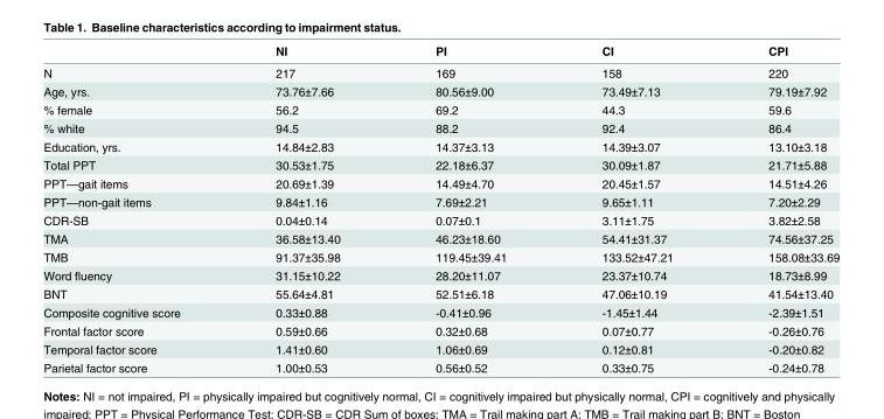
<table><thead><tr><td></td><td>NI</td><td>PI</td><td>CI</td><td>CPI</td></tr></thead><tbody><tr><td>N</td><td>217</td><td>169</td><td>158</td><td>220</td></tr><tr><td>Age, yrs.</td><td>73.76±7.66</td><td>80.56±9.00</td><td>73.49±7.13</td><td>79.19±7.92</td></tr><tr><td>% female</td><td>56.2</td><td>69.2</td><td>44.3</td><td>59.6</td></tr><tr><td>% white</td><td>94.5</td><td>88.2</td><td>92.4</td><td>86.4</td></tr><tr><td>Education, yrs.</td><td>14.84±2.83</td><td>14.37±3.13</td><td>14.39±3.07</td><td>13.10±3.18</td></tr><tr><td>Total PPT</td><td>30.53±1.75</td><td>22.18±6.37</td><td>30.09±1.87</td><td>21.71±5.88</td></tr><tr><td>PPT—gait items</td><td>20.69±1.39</td><td>14.49±4.70</td><td>20.45±1.57</td><td>14.51±4.26</td></tr><tr><td>PPT—non-gait items</td><td>9.84±1.16</td><td>7.69±2.21</td><td>9.65±1.11</td><td>7.20±2.29</td></tr><tr><td>CDR-SB</td><td>0.04±0.14</td><td>0.07±0.1</td><td>3.11±1.75</td><td>3.82±2.58</td></tr><tr><td>TMA</td><td>36.58±13.40</td><td>46.23±18.60</td><td>54.41±31.37</td><td>74.56±37.25</td></tr><tr><td>TMB</td><td>91.37±35.98</td><td>119.45±39.41</td><td>133.52±47.21</td><td>158.08±33.69</td></tr><tr><td>Word fluency</td><td>31.15±10.22</td><td>28.20±11.07</td><td>23.37±10.74</td><td>18.73±8.99</td></tr><tr><td>BNT</td><td>55.64±4.81</td><td>52.51±6.18</td><td>47.06±10.19</td><td>41.54±13.40</td></tr><tr><td>Composite cognitive score</td><td>0.33±0.88</td><td>-0.41±0.96</td><td>-1.45±1.44</td><td>-2.39±1.51</td></tr><tr><td>Frontal factor score</td><td>0.59±0.66</td><td>0.32±0.68</td><td>0.07±0.77</td><td>-0.26±0.76</td></tr><tr><td>Temporal factor score</td><td>1.41±0.60</td><td>1.06±0.69</td><td>0.12±0.81</td><td>-0.20±0.82</td></tr><tr><td>Parietal factor score</td><td>1.00±0.53</td><td>0.56±0.52</td><td>0.33±0.75</td><td>-0.24±0.78</td></tr></tbody></table>